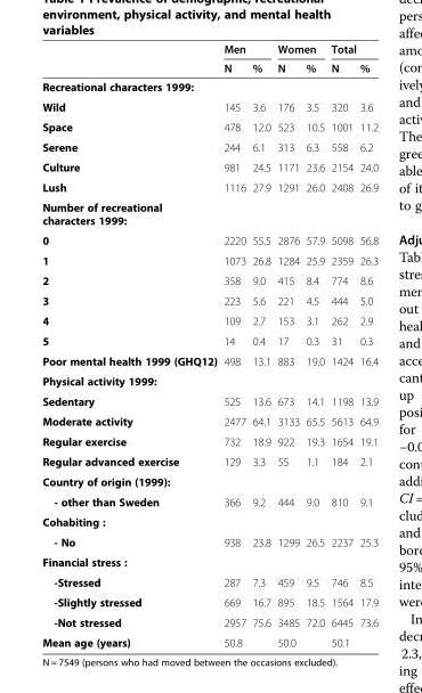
<table><thead><tr><td rowspan="2"></td><td colspan="2">Men</td><td colspan="2">Women</td><td colspan="2">Total</td></tr><tr><td>N</td><td>%</td><td>N</td><td>%</td><td>N</td><td>%</td></tr></thead><tbody><tr><td colspan="7">Recreational characters 1999:</td></tr><tr><td>Wild</td><td>145</td><td>3.6</td><td>176</td><td>3.5</td><td>320</td><td>3.6</td></tr><tr><td>Space</td><td>478</td><td>12.0</td><td>523</td><td>10.5</td><td>1001</td><td>11.2</td></tr><tr><td>Serene</td><td>244</td><td>6.1</td><td>313</td><td>6.3</td><td>558</td><td>6.2</td></tr><tr><td>Culture</td><td>981</td><td>24.5</td><td>1171</td><td>23.6</td><td>2154</td><td>24.0</td></tr><tr><td>Lush</td><td>1116</td><td>27.9</td><td>1291</td><td>26.0</td><td>2408</td><td>26.9</td></tr><tr><td colspan="7">Number of recreational characters 1999:</td></tr><tr><td>0</td><td>2220</td><td>55.5</td><td>2876</td><td>57.9</td><td>5098</td><td>56.8</td></tr><tr><td>1</td><td>1073</td><td>26.8</td><td>1284</td><td>25.9</td><td>2359</td><td>26.3</td></tr><tr><td>2</td><td>358</td><td>9.0</td><td>415</td><td>8.4</td><td>774</td><td>8.6</td></tr><tr><td>3</td><td>223</td><td>5.6</td><td>221</td><td>4.5</td><td>444</td><td>5.0</td></tr><tr><td>4</td><td>109</td><td>2.7</td><td>153</td><td>3.1</td><td>262</td><td>2.9</td></tr><tr><td>5</td><td>14</td><td>0.4</td><td>17</td><td>0.3</td><td>31</td><td>0.3</td></tr><tr><td>Poor mental health 1999 (GHQ12)</td><td>498</td><td>13.1</td><td>883</td><td>19.0</td><td>1424</td><td>16.4</td></tr><tr><td colspan="7">Physical activity 1999:</td></tr><tr><td>Sedentary</td><td>525</td><td>13.6</td><td>673</td><td>14.1</td><td>1198</td><td>13.9</td></tr><tr><td>Moderate activity</td><td>2477</td><td>64.1</td><td>3133</td><td>65.5</td><td>5613</td><td>64.9</td></tr><tr><td>Regular exercise</td><td>732</td><td>18.9</td><td>922</td><td>19.3</td><td>1654</td><td>19.1</td></tr><tr><td>Regular advanced exercise</td><td>129</td><td>3.3</td><td>55</td><td>1.1</td><td>184</td><td>2.1</td></tr><tr><td colspan="7">Country of origin (1999):</td></tr><tr><td>- other than Sweden</td><td>366</td><td>9.2</td><td>444</td><td>9.0</td><td>810</td><td>9.1</td></tr><tr><td colspan="7">Cohabiting :</td></tr><tr><td>- No</td><td>938</td><td>23.8</td><td>1299</td><td>26.5</td><td>2237</td><td>25.3</td></tr><tr><td colspan="7">Financial stress :</td></tr><tr><td>-Stressed</td><td>287</td><td>7.3</td><td>459</td><td>9.5</td><td>746</td><td>8.5</td></tr><tr><td>-Slightly stressed</td><td>669</td><td>16.7</td><td>895</td><td>18.5</td><td>1564</td><td>17.9</td></tr><tr><td>-Not stressed</td><td>2957</td><td>75.6</td><td>3485</td><td>72.0</td><td>6445</td><td>73.6</td></tr><tr><td>Mean age (years)</td><td>50.8</td><td></td><td>50.0</td><td></td><td>50.1</td><td></td></tr></tbody></table>